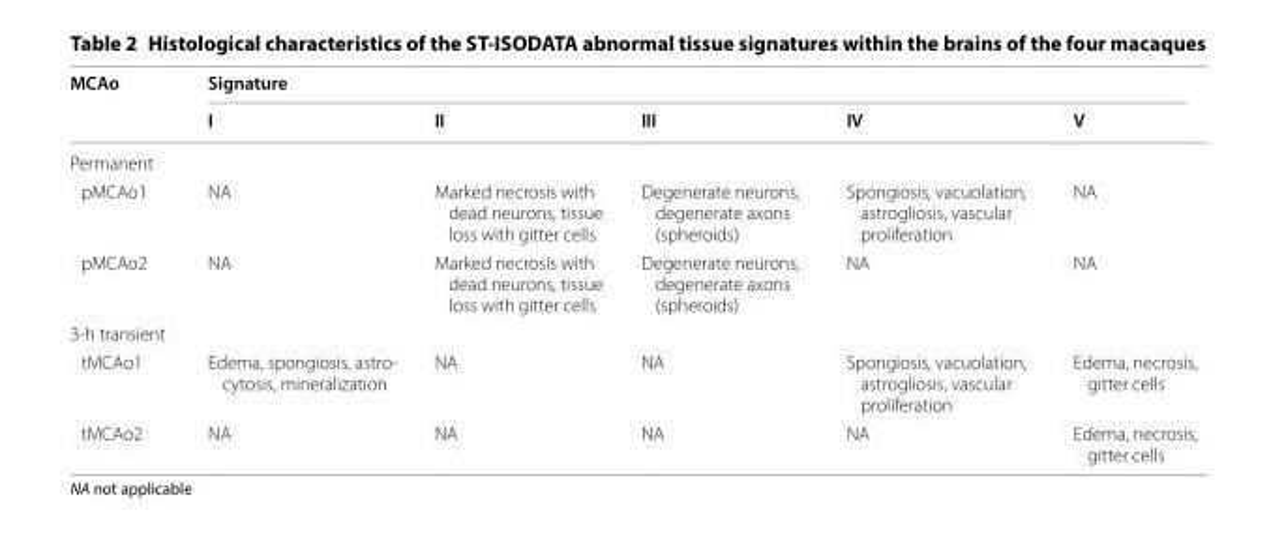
<table><thead><tr><td rowspan="2">MCAo</td><td colspan="5">Signature</td></tr><tr><td>I</td><td>II</td><td>III</td><td>IV</td><td>V</td></tr></thead><tbody><tr><td colspan="6">Permanent</td></tr><tr><td>pMCAo1</td><td>NA</td><td>Marked necrosis with dead neurons, tissue loss with gitter cells</td><td>Degenerate neurons, degenerate axons (spheroids)</td><td>Spongiosis, vacuolation, astrogliosis, vascular proliferation</td><td>NA</td></tr><tr><td>pMCAo2</td><td>NA</td><td>Marked necrosis with dead neurons, tissue loss with gitter cells</td><td>Degenerate neurons, degenerate axons (spheroids)</td><td>NA</td><td>NA</td></tr><tr><td colspan="6">3-h transient</td></tr><tr><td>tMCAo1</td><td>Edema, spongiosis, astro- cytosis, mineralization</td><td>NA</td><td>NA</td><td>Spongiosis, vacuolation, astrogliosis, vascular proliferation</td><td>Edema, necrosis, gitter cells</td></tr><tr><td>tMCAo2</td><td>NA</td><td>NA</td><td>NA</td><td>NA</td><td>Edema, necrosis, gitter cells</td></tr></tbody></table>